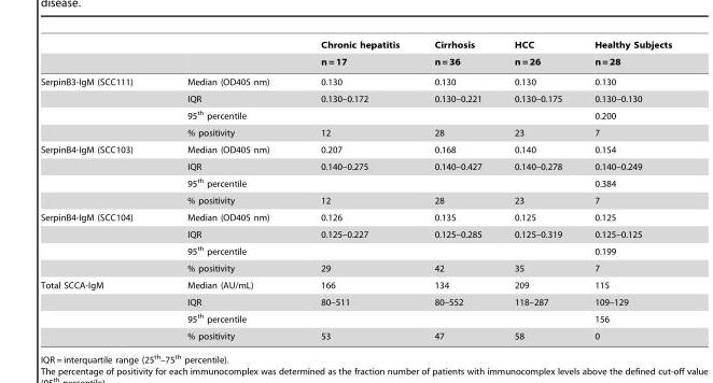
<table><thead><tr><td rowspan="2"></td><td rowspan="2"></td><td rowspan="2">Chronic hepatitis n = 17</td><td rowspan="2">Cirrhosis n = 36</td><td rowspan="2">HCC n = 26</td><td rowspan="2">Healthy Subjects n = 28</td></tr><tr></tr></thead><tbody><tr><td rowspan="4">SerpinB3-IgM (SCC111)</td><td>Median (OD405 nm)</td><td>0.130</td><td>0.130</td><td>0.130</td><td>0.130</td></tr><tr><td>IQR</td><td>0.130–0.172</td><td>0.130–0.221</td><td>0.130–0.175</td><td>0.130–0.130</td></tr><tr><td>95<sup>th</sup> percentile</td><td></td><td></td><td></td><td>0.200</td></tr><tr><td>% positivity</td><td>12</td><td>28</td><td>23</td><td>7</td></tr><tr><td rowspan="4">SerpinB4-IgM (SCC103)</td><td>Median (OD405 nm)</td><td>0.207</td><td>0.168</td><td>0.140</td><td>0.154</td></tr><tr><td>IQR</td><td>0.140–0.275</td><td>0.140–0.427</td><td>0.140–0.278</td><td>0.140–0.249</td></tr><tr><td>95<sup>th</sup> percentile</td><td></td><td></td><td></td><td>0.384</td></tr><tr><td>% positivity</td><td>12</td><td>28</td><td>23</td><td>7</td></tr><tr><td rowspan="4">SerpinB4-IgM (SCC104)</td><td>Median (OD405 nm)</td><td>0.126</td><td>0.135</td><td>0.125</td><td>0.125</td></tr><tr><td>IQR</td><td>0.125–0.227</td><td>0.125–0.285</td><td>0.125–0.319</td><td>0.125–0.125</td></tr><tr><td>95<sup>th</sup> percentile</td><td></td><td></td><td></td><td>0.199</td></tr><tr><td>% positivity</td><td>29</td><td>42</td><td>35</td><td>7</td></tr><tr><td rowspan="4">Total SCCA-IgM</td><td>Median (AU/mL)</td><td>166</td><td>134</td><td>209</td><td>115</td></tr><tr><td>IQR</td><td>80–511</td><td>80–552</td><td>118–287</td><td>109–129</td></tr><tr><td>95<sup>th</sup> percentile</td><td></td><td></td><td></td><td>156</td></tr><tr><td>% positivity</td><td>53</td><td>47</td><td>58</td><td>0</td></tr></tbody></table>